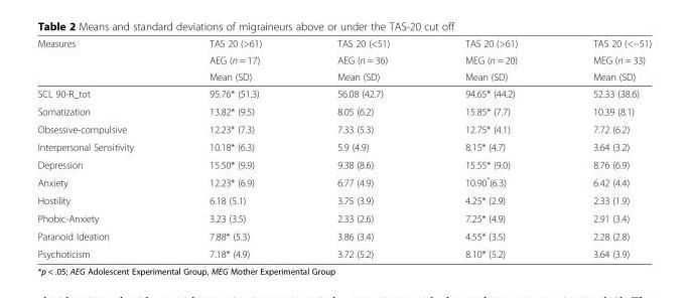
<table><thead><tr><td rowspan="3">Measures</td><td rowspan="3">TAS 20 (&gt;61) AEG (n = 17) Mean (SD)</td><td rowspan="3">TAS 20 (&lt;51) AEG (n = 36) Mean (SD)</td><td rowspan="3">TAS 20 (&gt;61) MEG (n = 20) Mean (SD)</td><td rowspan="3">TAS 20 (&lt;−51) MEG (n = 33) Mean (SD)</td></tr><tr></tr><tr></tr></thead><tbody><tr><td>SCL 90-R_tot</td><td>95.76* (51.3)</td><td>56.08 (42.7)</td><td>94.65* (44.2)</td><td>52.33 (38.6)</td></tr><tr><td>Somatization</td><td>13.82* (9.5)</td><td>8.05 (6.2)</td><td>15.85* (7.7)</td><td>10.39 (8.1)</td></tr><tr><td>Obsessive-compulsive</td><td>12.23* (7.3)</td><td>7.33 (5.3)</td><td>12.75* (4.1)</td><td>7.72 (6.2)</td></tr><tr><td>Interpersonal Sensitivity</td><td>10.18* (6.3)</td><td>5.9 (4.9)</td><td>8.15* (4.7)</td><td>3.64 (3.2)</td></tr><tr><td>Depression</td><td>15.50* (9.9)</td><td>9.38 (8.6)</td><td>15.55* (9.0)</td><td>8.76 (6.9)</td></tr><tr><td>Anxiety</td><td>12.23* (6.9)</td><td>6.77 (4.9)</td><td>10.90*(6.3)</td><td>6.42 (4.4)</td></tr><tr><td>Hostility</td><td>6.18 (5.1)</td><td>3.75 (3.9)</td><td>4.25* (2.9)</td><td>2.33 (1.9)</td></tr><tr><td>Phobic-Anxiety</td><td>3.23 (3.5)</td><td>2.33 (2.6)</td><td>7.25* (4.9)</td><td>2.91 (3.4)</td></tr><tr><td>Paranoid Ideation</td><td>7.88* (5.3)</td><td>3.86 (3.4)</td><td>4.55* (3.5)</td><td>2.28 (2.8)</td></tr><tr><td>Psychoticism</td><td>7.18* (4.9)</td><td>3.72 (5.2)</td><td>8.10* (5.2)</td><td>3.64 (3.9)</td></tr></tbody></table>